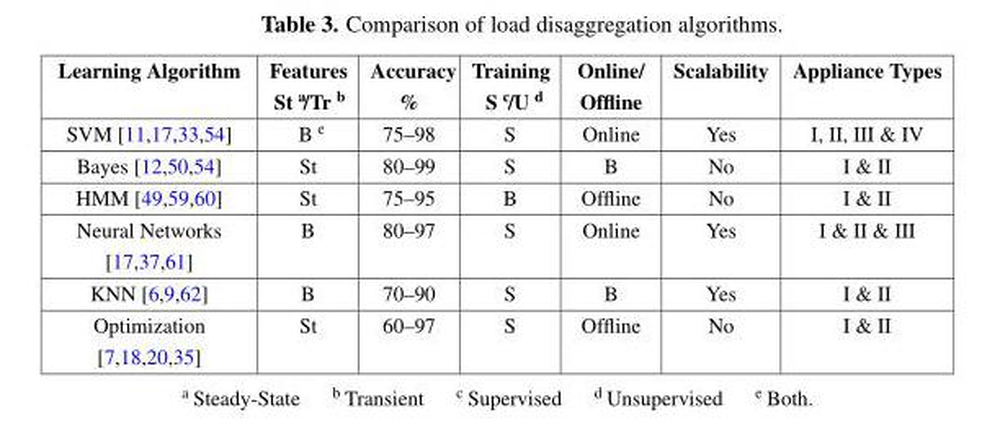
<table><thead><tr><td>Learning Algorithm</td><td>Features St <sup>a</sup>/Tr <sup>b</sup></td><td>Accuracy %</td><td>Training S <sup>c</sup>/U <sup>d</sup></td><td>Online/ Offline</td><td>Scalability</td><td>Appliance Types</td></tr></thead><tbody><tr><td>SVM [11,17,33,54]</td><td>B <sup>e</sup></td><td>75–98</td><td>S</td><td>Online</td><td>Yes</td><td>I, II, III &amp; IV</td></tr><tr><td>Bayes [12,50,54]</td><td>St</td><td>80–99</td><td>S</td><td>B</td><td>No</td><td>I &amp; II</td></tr><tr><td>HMM [49,59,60]</td><td>St</td><td>75–95</td><td>B</td><td>Offline</td><td>No</td><td>I &amp; II</td></tr><tr><td>Neural Networks [17,37,61]</td><td>B</td><td>80–97</td><td>S</td><td>Online</td><td>Yes</td><td>I &amp; II &amp; III</td></tr><tr><td>KNN [6,9,62]</td><td>B</td><td>70–90</td><td>S</td><td>B</td><td>Yes</td><td>I &amp; II</td></tr><tr><td>Optimization [7,18,20,35]</td><td>St</td><td>60–97</td><td>S</td><td>Offline</td><td>No</td><td>I &amp; II</td></tr></tbody></table>